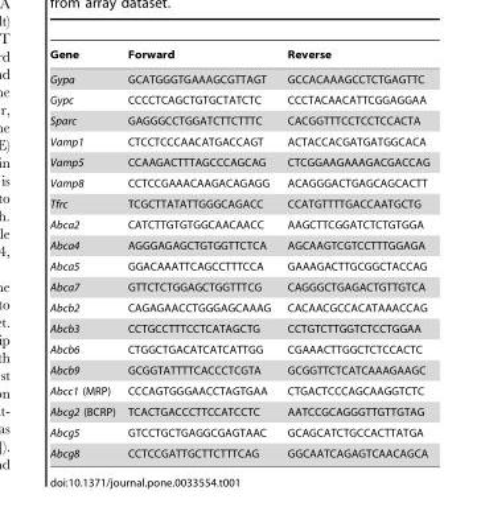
<table><thead><tr><td>Gene</td><td>Forward</td><td>Reverse</td></tr></thead><tbody><tr><td>Gypa</td><td>GCATGGGTGAAAGCGTTAGT</td><td>GCCACAAAGCCTCTGAGTTC</td></tr><tr><td>Gypc</td><td>CCCCTCAGCTGTGCTATCTC</td><td>CCCTACAACATTCGGAGGAA</td></tr><tr><td>Sparc</td><td>GAGGGCCTGGATCTTCTTTC</td><td>CACGGTTTCCTCCTCCACTA</td></tr><tr><td>Vamp1</td><td>CTCCTCCCAACATGACCAGT</td><td>ACTACCACGATGATGGCACA</td></tr><tr><td>Vamp5</td><td>CCAAGACTTTAGCCCAGCAG</td><td>CTCGGAAGAAAGACGACCAG</td></tr><tr><td>Vamp8</td><td>CCTCCGAAACAAGACAGAGG</td><td>ACAGGGACTGAGCAGCACTT</td></tr><tr><td>Tfrc</td><td>TCGCTTATATTGGGCAGACC</td><td>CCATGTTTTGACCAATGCTG</td></tr><tr><td>Abca2</td><td>CATCTTGTGTGGCAACAACC</td><td>AAGCTTCGGATCTCTGTGGA</td></tr><tr><td>Abca4</td><td>AGGGAGAGCTGTGGTTCTCA</td><td>AGCAAGTCGTCCTTTGGAGA</td></tr><tr><td>Abca5</td><td>GGACAAATTCAGCCTTTCCA</td><td>GAAAGACTTGCGGCTACCAG</td></tr><tr><td>Abca7</td><td>GTTCTCTGGAGCTGGTTTCG</td><td>CAGGGCTGAGACTGTTGTCA</td></tr><tr><td>Abcb2</td><td>CAGAGAACCTGGGAGCAAAG</td><td>CACAACGCCACATAAACCAG</td></tr><tr><td>Abcb3</td><td>CCTGCCTTTCCTCATAGCTG</td><td>CCTGTCTTGGTCTCCTGGAA</td></tr><tr><td>Abcb6</td><td>CTGGCTGACATCATCATTGG</td><td>CGAAACTTGGCTCTCCACTC</td></tr><tr><td>Abcb9</td><td>GCGGTATTTTCACCCTCGTA</td><td>GCGGTTCTCATCAAAGAAGC</td></tr><tr><td>Abcc1 (MRP)</td><td>CCCAGTGGGAACCTAGTGAA</td><td>CTGACTCCCAGCAAGGTCTC</td></tr><tr><td>Abcg2 (BCRP)</td><td>TCACTGACCCTTCCATCCTC</td><td>AATCCGCAGGGTTGTTGTAG</td></tr><tr><td>Abcg5</td><td>GTCCTGCTGAGGCGAGTAAC</td><td>GCAGCATCTGCCACTTATGA</td></tr><tr><td>Abcg8</td><td>CCTCCGATTGCTTCTTTCAG</td><td>GGCAATCAGAGTCAACAGCA</td></tr></tbody></table>